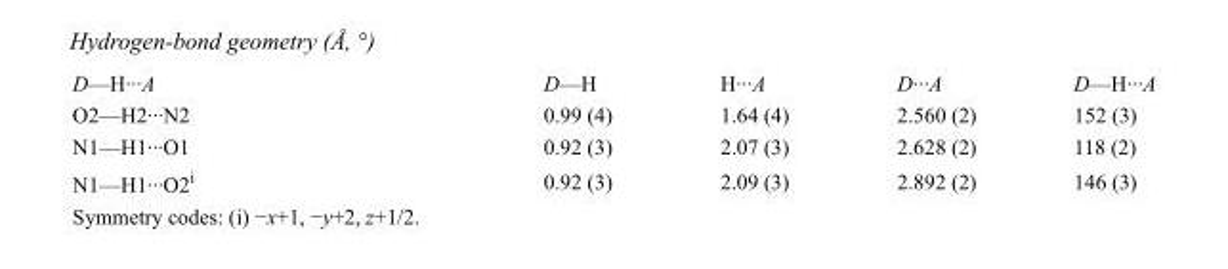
<table><tbody><tr><td>D—H···A</td><td>D—H</td><td>H···A</td><td>D···A</td><td>D—H···A</td></tr><tr><td>O2—H2···N2</td><td>0.99 (4)</td><td>1.64 (4)</td><td>2.560 (2)</td><td>152 (3)</td></tr><tr><td>N1—H1···O1</td><td>0.92 (3)</td><td>2.07 (3)</td><td>2.628 (2)</td><td>118 (2)</td></tr><tr><td>N1—H1···O2<sup>i</sup></td><td>0.92 (3)</td><td>2.09 (3)</td><td>2.892 (2)</td><td>146 (3)</td></tr></tbody></table>